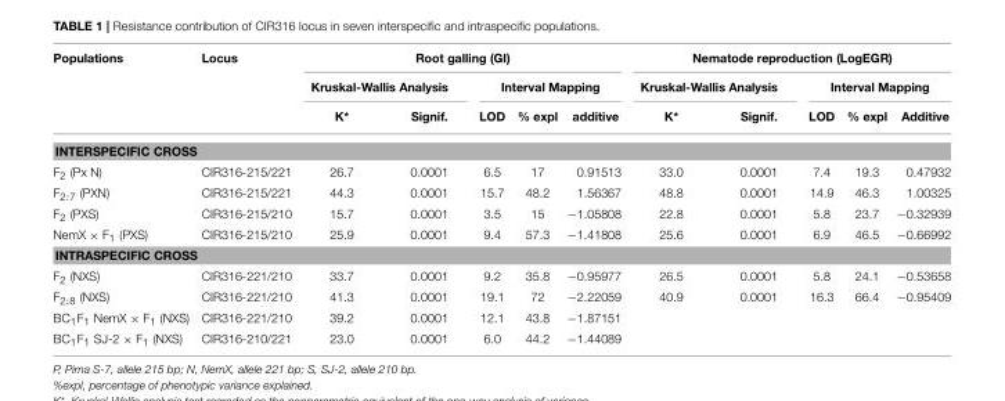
<table><thead><tr><td rowspan="3">Populations</td><td rowspan="3">Locus</td><td colspan="5">Root galling (GI)</td><td colspan="5">Nematode reproduction (LogEGR)</td></tr><tr><td colspan="2">Kruskal-Wallis Analysis</td><td colspan="3">Interval Mapping</td><td colspan="2">Kruskal-Wallis Analysis</td><td colspan="3">Interval Mapping</td></tr><tr><td>K*</td><td>Signif.</td><td>LOD</td><td>% expl</td><td>additive</td><td>K*</td><td>Signif.</td><td>LOD</td><td>% expl</td><td>Additive</td></tr></thead><tbody><tr><td colspan="12">INTERSPECIFIC CROSS</td></tr><tr><td>F<sub>2</sub> (Px N)</td><td>CIR316-215/221</td><td>26.7</td><td>0.0001</td><td>6.5</td><td>17</td><td>0.91513</td><td>33.0</td><td>0.0001</td><td>7.4</td><td>19.3</td><td>0.47932</td></tr><tr><td>F<sub>2:7</sub> (PXN)</td><td>CIR316-215/221</td><td>44.3</td><td>0.0001</td><td>15.7</td><td>48.2</td><td>1.56367</td><td>48.8</td><td>0.0001</td><td>14.9</td><td>46.3</td><td>1.00325</td></tr><tr><td>F<sub>2</sub> (PXS)</td><td>CIR316-215/210</td><td>15.7</td><td>0.0001</td><td>3.5</td><td>15</td><td>−1.05808</td><td>22.8</td><td>0.0001</td><td>5.8</td><td>23.7</td><td>−0.32939</td></tr><tr><td>NemX × F<sub>1</sub> (PXS)</td><td>CIR316-215/210</td><td>25.9</td><td>0.0001</td><td>9.4</td><td>57.3</td><td>−1.41808</td><td>25.6</td><td>0.0001</td><td>6.9</td><td>46.5</td><td>−0.66992</td></tr><tr><td colspan="12">INTRASPECIFIC CROSS</td></tr><tr><td>F<sub>2</sub> (NXS)</td><td>CIR316-221/210</td><td>33.7</td><td>0.0001</td><td>9.2</td><td>35.8</td><td>−0.95977</td><td>26.5</td><td>0.0001</td><td>5.8</td><td>24.1</td><td>−0.53658</td></tr><tr><td>F<sub>2:8</sub> (NXS)</td><td>CIR316-221/210</td><td>41.3</td><td>0.0001</td><td>19.1</td><td>72</td><td>−2.22059</td><td>40.9</td><td>0.0001</td><td>16.3</td><td>66.4</td><td>−0.95409</td></tr><tr><td>BC<sub>1</sub>F<sub>1</sub> NemX × F<sub>1</sub> (NXS)</td><td>CIR316-221/210</td><td>39.2</td><td>0.0001</td><td>12.1</td><td>43.8</td><td>−1.87151</td><td></td><td></td><td></td><td></td><td></td></tr><tr><td>BC<sub>1</sub>F<sub>1</sub> SJ-2 × F<sub>1</sub> (NXS)</td><td>CIR316-210/221</td><td>23.0</td><td>0.0001</td><td>6.0</td><td>44.2</td><td>−1.44089</td><td></td><td></td><td></td><td></td><td></td></tr></tbody></table>